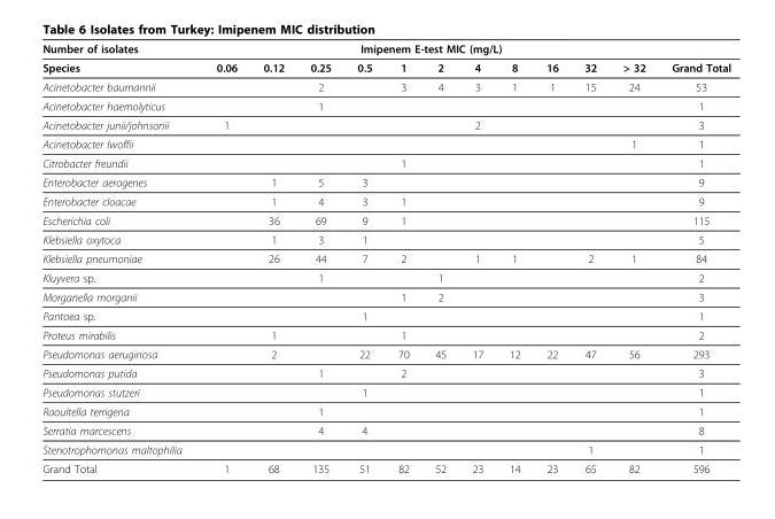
<table><thead><tr><td rowspan="2">Number of isolates Species</td><td colspan="11">Imipenem E-test MIC (mg/L)</td><td rowspan="2">Grand Total</td></tr><tr><td>0.06</td><td>0.12</td><td>0.25</td><td>0.5</td><td>1</td><td>2</td><td>4</td><td>8</td><td>16</td><td>32</td><td>&gt; 32</td></tr></thead><tbody><tr><td>Acinetobacter baumannii</td><td></td><td></td><td>2</td><td></td><td>3</td><td>4</td><td>3</td><td>1</td><td>1</td><td>15</td><td>24</td><td>53</td></tr><tr><td>Acinetobacter haemolyticus</td><td></td><td></td><td>1</td><td></td><td></td><td></td><td></td><td></td><td></td><td></td><td></td><td>1</td></tr><tr><td>Acinetobacter junii/johnsonii</td><td>1</td><td></td><td></td><td></td><td></td><td></td><td>2</td><td></td><td></td><td></td><td></td><td>3</td></tr><tr><td>Acinetobacter lwoffii</td><td></td><td></td><td></td><td></td><td></td><td></td><td></td><td></td><td></td><td></td><td>1</td><td>1</td></tr><tr><td>Citrobacter freundii</td><td></td><td></td><td></td><td></td><td>1</td><td></td><td></td><td></td><td></td><td></td><td></td><td>1</td></tr><tr><td>Enterobacter aerogenes</td><td></td><td>1</td><td>5</td><td>3</td><td></td><td></td><td></td><td></td><td></td><td></td><td></td><td>9</td></tr><tr><td>Enterobacter cloacae</td><td></td><td>1</td><td>4</td><td>3</td><td>1</td><td></td><td></td><td></td><td></td><td></td><td></td><td>9</td></tr><tr><td>Escherichia coli</td><td></td><td>36</td><td>69</td><td>9</td><td>1</td><td></td><td></td><td></td><td></td><td></td><td></td><td>115</td></tr><tr><td>Klebsiella oxytoca</td><td></td><td>1</td><td>3</td><td>1</td><td></td><td></td><td></td><td></td><td></td><td></td><td></td><td>5</td></tr><tr><td>Klebsiella pneumoniae</td><td></td><td>26</td><td>44</td><td>7</td><td>2</td><td></td><td>1</td><td>1</td><td></td><td>2</td><td>1</td><td>84</td></tr><tr><td>Kluyvera sp.</td><td></td><td></td><td>1</td><td></td><td></td><td>1</td><td></td><td></td><td></td><td></td><td></td><td>2</td></tr><tr><td>Morganella morganii</td><td></td><td></td><td></td><td></td><td>1</td><td>2</td><td></td><td></td><td></td><td></td><td></td><td>3</td></tr><tr><td>Pantoea sp.</td><td></td><td></td><td></td><td>1</td><td></td><td></td><td></td><td></td><td></td><td></td><td></td><td>1</td></tr><tr><td>Proteus mirabilis</td><td></td><td>1</td><td></td><td></td><td>1</td><td></td><td></td><td></td><td></td><td></td><td></td><td>2</td></tr><tr><td>Pseudomonas aeruginosa</td><td></td><td>2</td><td></td><td>22</td><td>70</td><td>45</td><td>17</td><td>12</td><td>22</td><td>47</td><td>56</td><td>293</td></tr><tr><td>Pseudomonas putida</td><td></td><td></td><td>1</td><td></td><td>2</td><td></td><td></td><td></td><td></td><td></td><td></td><td>3</td></tr><tr><td>Pseudomonas stutzeri</td><td></td><td></td><td></td><td>1</td><td></td><td></td><td></td><td></td><td></td><td></td><td></td><td>1</td></tr><tr><td>Raoultella terrigena</td><td></td><td></td><td>1</td><td></td><td></td><td></td><td></td><td></td><td></td><td></td><td></td><td>1</td></tr><tr><td>Serratia marcescens</td><td></td><td></td><td>4</td><td>4</td><td></td><td></td><td></td><td></td><td></td><td></td><td></td><td>8</td></tr><tr><td>Stenotrophomonas maltophilia</td><td></td><td></td><td></td><td></td><td></td><td></td><td></td><td></td><td></td><td>1</td><td></td><td>1</td></tr><tr><td>Grand Total</td><td>1</td><td>68</td><td>135</td><td>51</td><td>82</td><td>52</td><td>23</td><td>14</td><td>23</td><td>65</td><td>82</td><td>596</td></tr></tbody></table>